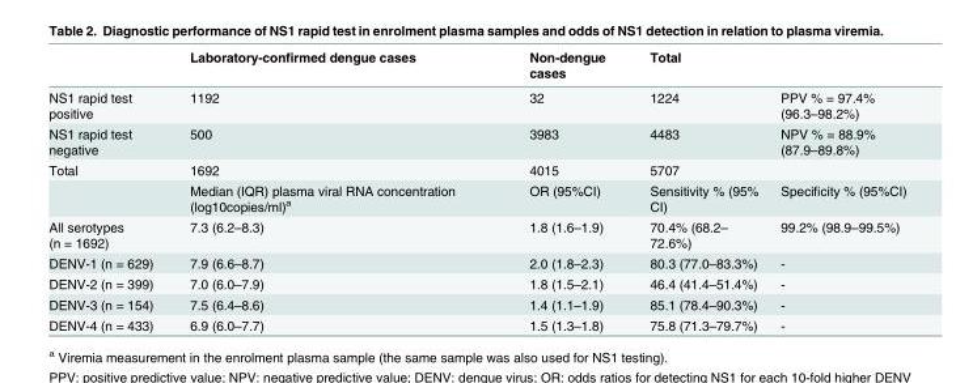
<table><thead><tr><td></td><td>Laboratory-confirmed dengue cases</td><td>Non-dengue cases</td><td>Total</td><td></td></tr></thead><tbody><tr><td>NS1 rapid test positive</td><td>1192</td><td>32</td><td>1224</td><td>PPV % = 97.4% (96.3–98.2%)</td></tr><tr><td>NS1 rapid test negative</td><td>500</td><td>3983</td><td>4483</td><td>NPV % = 88.9% (87.9–89.8%)</td></tr><tr><td rowspan="2">Total</td><td>1692</td><td>4015</td><td>5707</td><td></td></tr><tr><td>Median (IQR) plasma viral RNA concentration (log10copies/ml)<sup>a</sup></td><td>OR (95%CI)</td><td>Sensitivity % (95% CI)</td><td>Specificity % (95%CI)</td></tr><tr><td>All serotypes (n = 1692)</td><td>7.3 (6.2–8.3)</td><td>1.8 (1.6–1.9)</td><td>70.4% (68.2– 72.6%)</td><td>99.2% (98.9–99.5%)</td></tr><tr><td>DENV-1 (n = 629)</td><td>7.9 (6.6–8.7)</td><td>2.0 (1.8–2.3)</td><td>80.3 (77.0–83.3%)</td><td>-</td></tr><tr><td>DENV-2 (n = 399)</td><td>7.0 (6.0–7.9)</td><td>1.8 (1.5–2.1)</td><td>46.4 (41.4–51.4%)</td><td>-</td></tr><tr><td>DENV-3 (n = 154)</td><td>7.5 (6.4–8.6)</td><td>1.4 (1.1–1.9)</td><td>85.1 (78.4–90.3%)</td><td>-</td></tr><tr><td>DENV-4 (n = 433)</td><td>6.9 (6.0–7.7)</td><td>1.5 (1.3–1.8)</td><td>75.8 (71.3–79.7%)</td><td>-</td></tr></tbody></table>